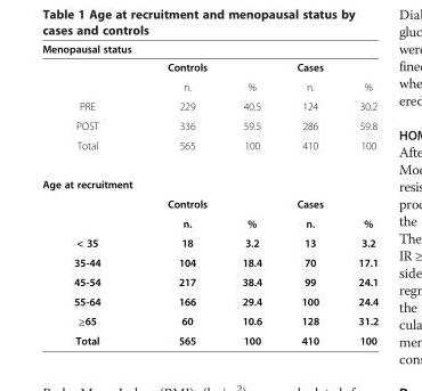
<table><thead><tr><td>Menopausal status</td><td></td><td></td><td></td><td></td></tr></thead><tbody><tr><td></td><td>Controls</td><td></td><td>Cases</td><td></td></tr><tr><td></td><td>n.</td><td>%</td><td>n.</td><td>%</td></tr><tr><td>PRE</td><td>229</td><td>40.5</td><td>124</td><td>30.2</td></tr><tr><td>POST</td><td>336</td><td>59.5</td><td>286</td><td>59.8</td></tr><tr><td>Total</td><td>565</td><td>100</td><td>410</td><td>100</td></tr><tr><td colspan="5">Age at recruitment</td></tr><tr><td></td><td>Controls</td><td></td><td>Cases</td><td></td></tr><tr><td></td><td>n.</td><td>%</td><td>n.</td><td>%</td></tr><tr><td>&lt; 35</td><td>18</td><td>3.2</td><td>13</td><td>3.2</td></tr><tr><td>35-44</td><td>104</td><td>18.4</td><td>70</td><td>17.1</td></tr><tr><td>45-54</td><td>217</td><td>38.4</td><td>99</td><td>24.1</td></tr><tr><td>55-64</td><td>166</td><td>29.4</td><td>100</td><td>24.4</td></tr><tr><td>≥65</td><td>60</td><td>10.6</td><td>128</td><td>31.2</td></tr><tr><td>Total</td><td>565</td><td>100</td><td>410</td><td>100</td></tr></tbody></table>